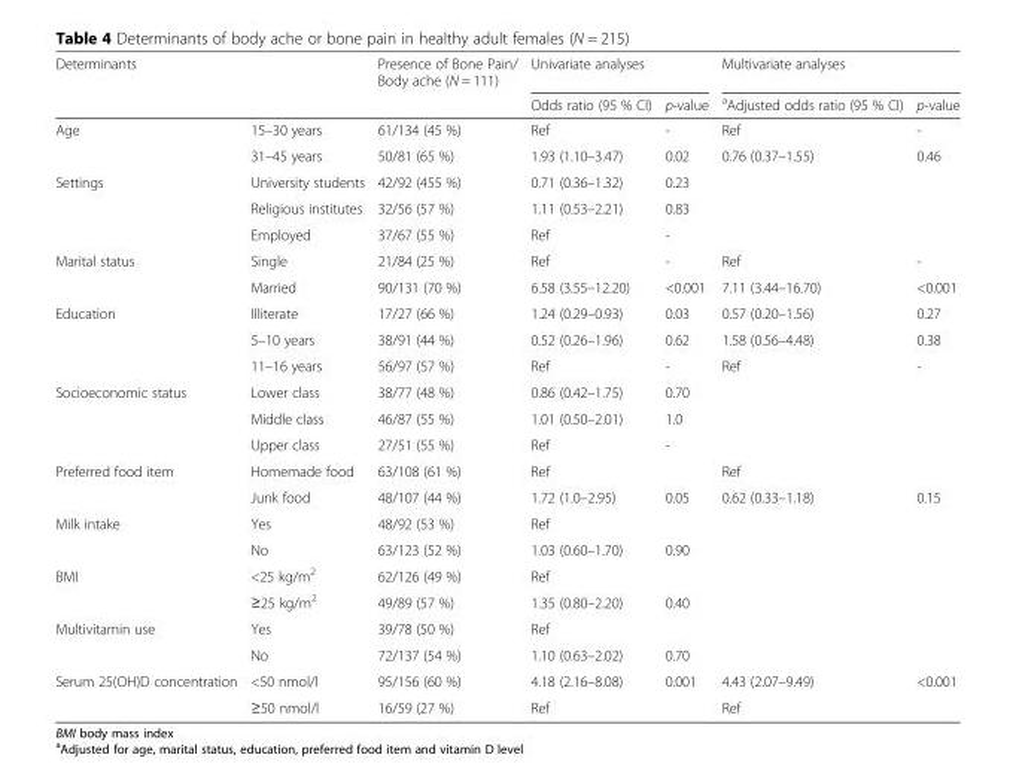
<table><thead><tr><td rowspan="2">Determinants</td><td rowspan="2"></td><td rowspan="2">Presence of Bone Pain/ Body ache (N = 111)</td><td colspan="2">Univariate analyses</td><td colspan="2">Multivariate analyses</td></tr><tr><td>Odds ratio (95 % CI)</td><td>p-value</td><td><sup>a</sup>Adjusted odds ratio (95 % CI)</td><td>p-value</td></tr></thead><tbody><tr><td rowspan="2">Age</td><td>15–30 years</td><td>61/134 (45 %)</td><td>Ref</td><td>-</td><td>Ref</td><td>-</td></tr><tr><td>31–45 years</td><td>50/81 (65 %)</td><td>1.93 (1.10–3.47)</td><td>0.02</td><td>0.76 (0.37–1.55)</td><td>0.46</td></tr><tr><td rowspan="3">Settings</td><td>University students</td><td>42/92 (455 %)</td><td>0.71 (0.36–1.32)</td><td>0.23</td><td></td><td></td></tr><tr><td>Religious institutes</td><td>32/56 (57 %)</td><td>1.11 (0.53–2.21)</td><td>0.83</td><td></td><td></td></tr><tr><td>Employed</td><td>37/67 (55 %)</td><td>Ref</td><td>-</td><td></td><td></td></tr><tr><td rowspan="2">Marital status</td><td>Single</td><td>21/84 (25 %)</td><td>Ref</td><td>-</td><td>Ref</td><td>-</td></tr><tr><td>Married</td><td>90/131 (70 %)</td><td>6.58 (3.55–12.20)</td><td>&lt;0.001</td><td>7.11 (3.44–16.70)</td><td>&lt;0.001</td></tr><tr><td rowspan="3">Education</td><td>Illiterate</td><td>17/27 (66 %)</td><td>1.24 (0.29–0.93)</td><td>0.03</td><td>0.57 (0.20–1.56)</td><td>0.27</td></tr><tr><td>5–10 years</td><td>38/91 (44 %)</td><td>0.52 (0.26–1.96)</td><td>0.62</td><td>1.58 (0.56–4.48)</td><td>0.38</td></tr><tr><td>11–16 years</td><td>56/97 (57 %)</td><td>Ref</td><td>-</td><td>Ref</td><td>-</td></tr><tr><td rowspan="3">Socioeconomic status</td><td>Lower class</td><td>38/77 (48 %)</td><td>0.86 (0.42–1.75)</td><td>0.70</td><td></td><td></td></tr><tr><td>Middle class</td><td>46/87 (55 %)</td><td>1.01 (0.50–2.01)</td><td>1.0</td><td></td><td></td></tr><tr><td>Upper class</td><td>27/51 (55 %)</td><td>Ref</td><td>-</td><td></td><td></td></tr><tr><td rowspan="2">Preferred food item</td><td>Homemade food</td><td>63/108 (61 %)</td><td>Ref</td><td></td><td>Ref</td><td></td></tr><tr><td>Junk food</td><td>48/107 (44 %)</td><td>1.72 (1.0–2.95)</td><td>0.05</td><td>0.62 (0.33–1.18)</td><td>0.15</td></tr><tr><td rowspan="2">Milk intake</td><td>Yes</td><td>48/92 (53 %)</td><td>Ref</td><td></td><td></td><td></td></tr><tr><td>No</td><td>63/123 (52 %)</td><td>1.03 (0.60–1.70)</td><td>0.90</td><td></td><td></td></tr><tr><td rowspan="2">BMI</td><td>&lt;25 kg/m<sup>2</sup></td><td>62/126 (49 %)</td><td>Ref</td><td></td><td></td><td></td></tr><tr><td>≥25 kg/m<sup>2</sup></td><td>49/89 (57 %)</td><td>1.35 (0.80–2.20)</td><td>0.40</td><td></td><td></td></tr><tr><td rowspan="2">Multivitamin use</td><td>Yes</td><td>39/78 (50 %)</td><td>Ref</td><td></td><td></td><td></td></tr><tr><td>No</td><td>72/137 (54 %)</td><td>1.10 (0.63–2.02)</td><td>0.70</td><td></td><td></td></tr><tr><td rowspan="2">Serum 25(OH)D concentration</td><td>&lt;50 nmol/l</td><td>95/156 (60 %)</td><td>4.18 (2.16–8.08)</td><td>0.001</td><td>4.43 (2.07–9.49)</td><td>&lt;0.001</td></tr><tr><td>≥50 nmol/l</td><td>16/59 (27 %)</td><td>Ref</td><td></td><td>Ref</td><td></td></tr></tbody></table>